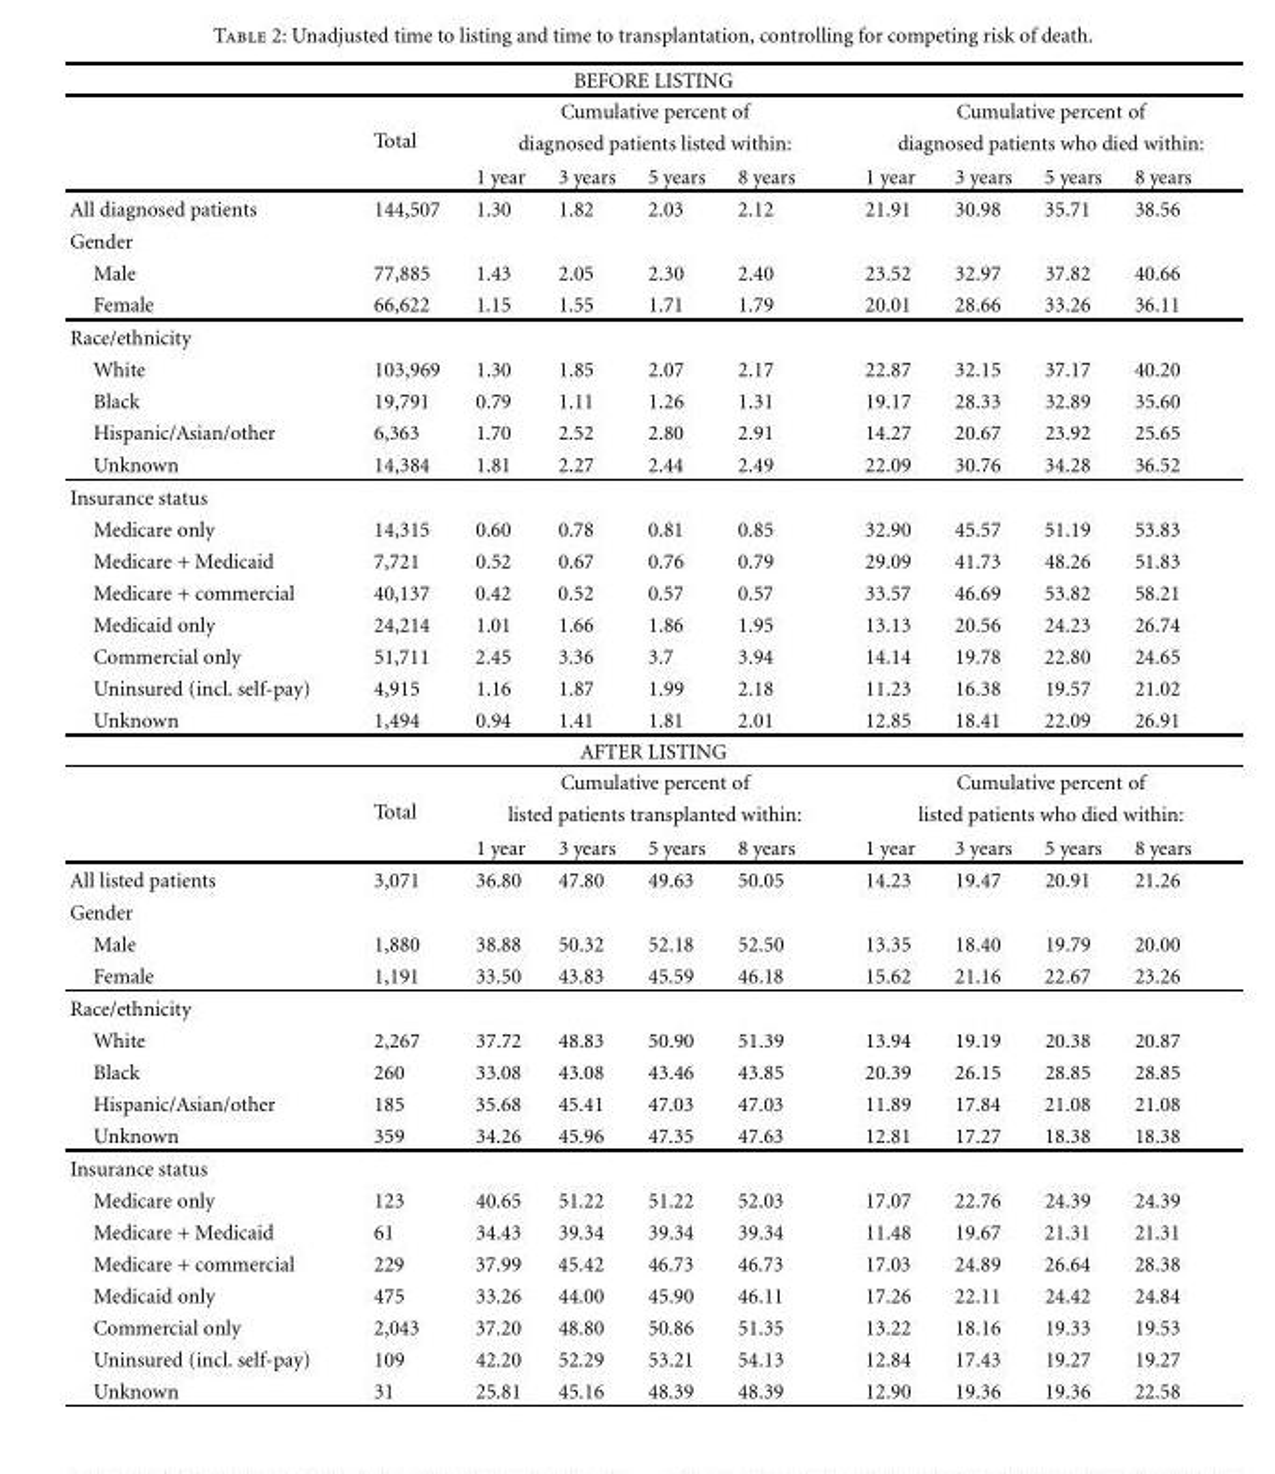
<table><thead><tr><td colspan="10">BEFORE LISTING</td></tr><tr><td rowspan="3"></td><td rowspan="3">Total</td><td rowspan="2" colspan="4">Cumulative percent of diagnosed patients listed within:</td><td rowspan="2" colspan="4">Cumulative percent of diagnosed patients who died within:</td></tr><tr></tr><tr><td>1 year</td><td>3 years</td><td>5 years</td><td>8 years</td><td>1 year</td><td>3 years</td><td>5 years</td><td>8 years</td></tr></thead><tbody><tr><td>All diagnosed patients</td><td>144,507</td><td>1.30</td><td>1.82</td><td>2.03</td><td>2.12</td><td>21.91</td><td>30.98</td><td>35.71</td><td>38.56</td></tr><tr><td colspan="10">Gender</td></tr><tr><td>Male</td><td>77,885</td><td>1.43</td><td>2.05</td><td>2.30</td><td>2.40</td><td>23.52</td><td>32.97</td><td>37.82</td><td>40.66</td></tr><tr><td>Female</td><td>66,622</td><td>1.15</td><td>1.55</td><td>1.71</td><td>1.79</td><td>20.01</td><td>28.66</td><td>33.26</td><td>36.11</td></tr><tr><td colspan="10">Race/ethnicity</td></tr><tr><td>White</td><td>103,969</td><td>1.30</td><td>1.85</td><td>2.07</td><td>2.17</td><td>22.87</td><td>32.15</td><td>37.17</td><td>40.20</td></tr><tr><td>Black</td><td>19,791</td><td>0.79</td><td>1.11</td><td>1.26</td><td>1.31</td><td>19.17</td><td>28.33</td><td>32.89</td><td>35.60</td></tr><tr><td>Hispanic/Asian/other</td><td>6,363</td><td>1.70</td><td>2.52</td><td>2.80</td><td>2.91</td><td>14.27</td><td>20.67</td><td>23.92</td><td>25.65</td></tr><tr><td>Unknown</td><td>14,384</td><td>1.81</td><td>2.27</td><td>2.44</td><td>2.49</td><td>22.09</td><td>30.76</td><td>34.28</td><td>36.52</td></tr><tr><td colspan="10">Insurance status</td></tr><tr><td>Medicare only</td><td>14,315</td><td>0.60</td><td>0.78</td><td>0.81</td><td>0.85</td><td>32.90</td><td>45.57</td><td>51.19</td><td>53.83</td></tr><tr><td>Medicare + Medicaid</td><td>7,721</td><td>0.52</td><td>0.67</td><td>0.76</td><td>0.79</td><td>29.09</td><td>41.73</td><td>48.26</td><td>51.83</td></tr><tr><td>Medicare + commercial</td><td>40,137</td><td>0.42</td><td>0.52</td><td>0.57</td><td>0.57</td><td>33.57</td><td>46.69</td><td>53.82</td><td>58.21</td></tr><tr><td>Medicaid only</td><td>24,214</td><td>1.01</td><td>1.66</td><td>1.86</td><td>1.95</td><td>13.13</td><td>20.56</td><td>24.23</td><td>26.74</td></tr><tr><td>Commercial only</td><td>51,711</td><td>2.45</td><td>3.36</td><td>3.7</td><td>3.94</td><td>14.14</td><td>19.78</td><td>22.80</td><td>24.65</td></tr><tr><td>Uninsured (incl. self-pay)</td><td>4,915</td><td>1.16</td><td>1.87</td><td>1.99</td><td>2.18</td><td>11.23</td><td>16.38</td><td>19.57</td><td>21.02</td></tr><tr><td>Unknown</td><td>1,494</td><td>0.94</td><td>1.41</td><td>1.81</td><td>2.01</td><td>12.85</td><td>18.41</td><td>22.09</td><td>26.91</td></tr><tr><td colspan="10">AFTER LISTING</td></tr><tr><td></td><td rowspan="3">Total</td><td colspan="4">Cumulative percent of</td><td colspan="4">Cumulative percent of</td></tr><tr><td></td><td colspan="4">listed patients transplanted within:</td><td colspan="4">listed patients who died within:</td></tr><tr><td></td><td>1 year</td><td>3 years</td><td>5 years</td><td>8 years</td><td>1 year</td><td>3 years</td><td>5 years</td><td>8 years</td></tr><tr><td>All listed patients</td><td>3,071</td><td>36.80</td><td>47.80</td><td>49.63</td><td>50.05</td><td>14.23</td><td>19.47</td><td>20.91</td><td>21.26</td></tr><tr><td colspan="10">Gender</td></tr><tr><td>Male</td><td>1,880</td><td>38.88</td><td>50.32</td><td>52.18</td><td>52.50</td><td>13.35</td><td>18.40</td><td>19.79</td><td>20.00</td></tr><tr><td>Female</td><td>1,191</td><td>33.50</td><td>43.83</td><td>45.59</td><td>46.18</td><td>15.62</td><td>21.16</td><td>22.67</td><td>23.26</td></tr><tr><td colspan="10">Race/ethnicity</td></tr><tr><td>White</td><td>2,267</td><td>37.72</td><td>48.83</td><td>50.90</td><td>51.39</td><td>13.94</td><td>19.19</td><td>20.38</td><td>20.87</td></tr><tr><td>Black</td><td>260</td><td>33.08</td><td>43.08</td><td>43.46</td><td>43.85</td><td>20.39</td><td>26.15</td><td>28.85</td><td>28.85</td></tr><tr><td>Hispanic/Asian/other</td><td>185</td><td>35.68</td><td>45.41</td><td>47.03</td><td>47.03</td><td>11.89</td><td>17.84</td><td>21.08</td><td>21.08</td></tr><tr><td>Unknown</td><td>359</td><td>34.26</td><td>45.96</td><td>47.35</td><td>47.63</td><td>12.81</td><td>17.27</td><td>18.38</td><td>18.38</td></tr><tr><td colspan="10">Insurance status</td></tr><tr><td>Medicare only</td><td>123</td><td>40.65</td><td>51.22</td><td>51.22</td><td>52.03</td><td>17.07</td><td>22.76</td><td>24.39</td><td>24.39</td></tr><tr><td>Medicare + Medicaid</td><td>61</td><td>34.43</td><td>39.34</td><td>39.34</td><td>39.34</td><td>11.48</td><td>19.67</td><td>21.31</td><td>21.31</td></tr><tr><td>Medicare + commercial</td><td>229</td><td>37.99</td><td>45.42</td><td>46.73</td><td>46.73</td><td>17.03</td><td>24.89</td><td>26.64</td><td>28.38</td></tr><tr><td>Medicaid only</td><td>475</td><td>33.26</td><td>44.00</td><td>45.90</td><td>46.11</td><td>17.26</td><td>22.11</td><td>24.42</td><td>24.84</td></tr><tr><td>Commercial only</td><td>2,043</td><td>37.20</td><td>48.80</td><td>50.86</td><td>51.35</td><td>13.22</td><td>18.16</td><td>19.33</td><td>19.53</td></tr><tr><td>Uninsured (incl. self-pay)</td><td>109</td><td>42.20</td><td>52.29</td><td>53.21</td><td>54.13</td><td>12.84</td><td>17.43</td><td>19.27</td><td>19.27</td></tr><tr><td>Unknown</td><td>31</td><td>25.81</td><td>45.16</td><td>48.39</td><td>48.39</td><td>12.90</td><td>19.36</td><td>19.36</td><td>22.58</td></tr></tbody></table>